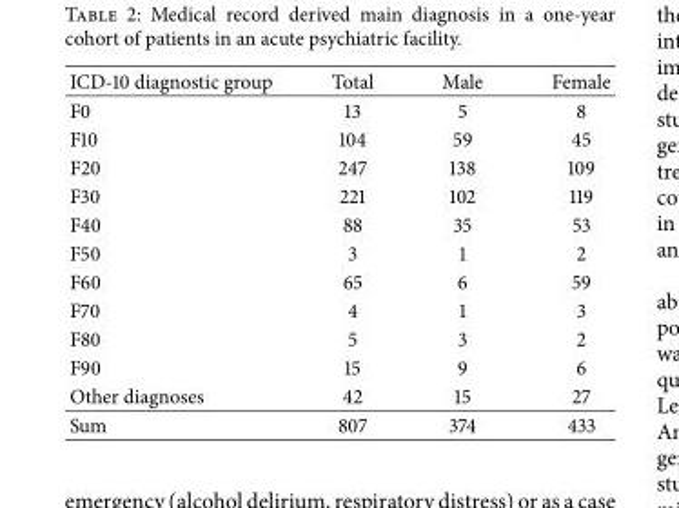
<table><thead><tr><td>ICD-10 diagnostic group</td><td>Total</td><td>Male</td><td>Female</td></tr></thead><tbody><tr><td>F0</td><td>13</td><td>5</td><td>8</td></tr><tr><td>F10</td><td>104</td><td>59</td><td>45</td></tr><tr><td>F20</td><td>247</td><td>138</td><td>109</td></tr><tr><td>F30</td><td>221</td><td>102</td><td>119</td></tr><tr><td>F40</td><td>88</td><td>35</td><td>53</td></tr><tr><td>F50</td><td>3</td><td>1</td><td>2</td></tr><tr><td>F60</td><td>65</td><td>6</td><td>59</td></tr><tr><td>F70</td><td>4</td><td>1</td><td>3</td></tr><tr><td>F80</td><td>5</td><td>3</td><td>2</td></tr><tr><td>F90</td><td>15</td><td>9</td><td>6</td></tr><tr><td>Other diagnoses</td><td>42</td><td>15</td><td>27</td></tr><tr><td>Sum</td><td>807</td><td>374</td><td>433</td></tr></tbody></table>